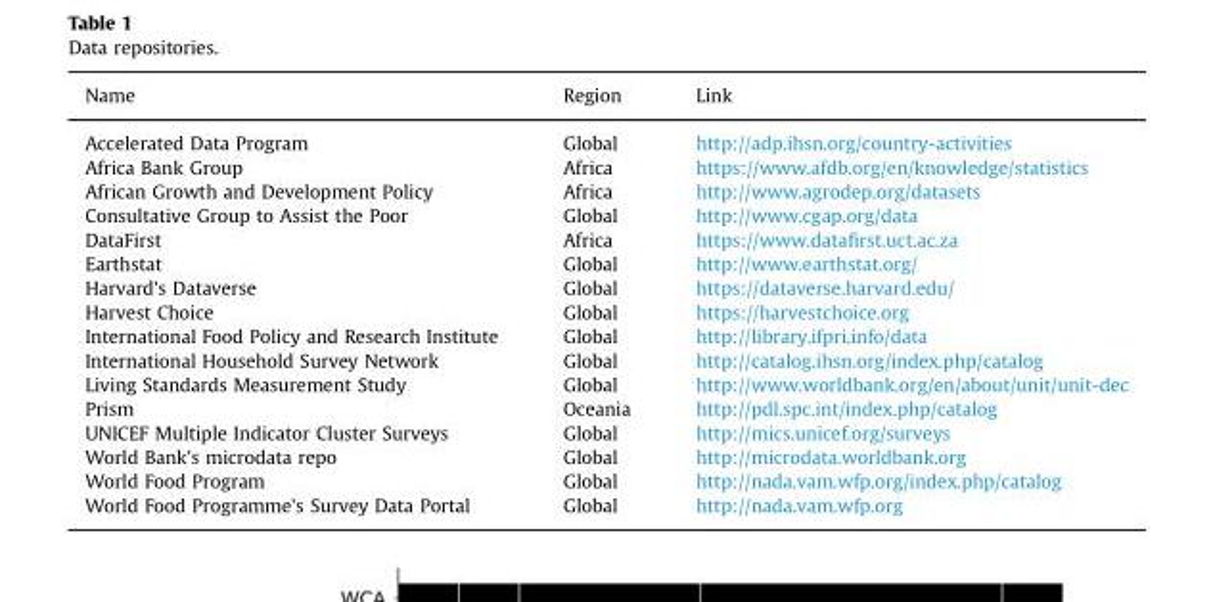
<table><thead><tr><td>Name</td><td>Region</td><td>Link</td></tr></thead><tbody><tr><td>Accelerated Data Program</td><td>Global</td><td>http://adp.ihsn.org/country-activities</td></tr><tr><td>Africa Bank Group</td><td>Africa</td><td>https://www.afdb.org/en/knowledge/statistics</td></tr><tr><td>African Growth and Development Policy</td><td>Africa</td><td>http://www.agrodep.org/datasets</td></tr><tr><td>Consultative Group to Assist the Poor</td><td>Global</td><td>http://www.cgap.org/data</td></tr><tr><td>DataFirst</td><td>Africa</td><td>https://www.datafirst.uct.ac.za</td></tr><tr><td>Earthstat</td><td>Global</td><td>http://www.earthstat.org/</td></tr><tr><td>Harvard&#x27;s Dataverse</td><td>Global</td><td>https://dataverse.harvard.edu/</td></tr><tr><td>Harvest Choice</td><td>Global</td><td>https://harvestchoice.org</td></tr><tr><td>International Food Policy and Research Institute</td><td>Global</td><td>http://library.ifpri.info/data</td></tr><tr><td>International Household Survey Network</td><td>Global</td><td>http://catalog.ihsn.org/index.php/catalog</td></tr><tr><td>Living Standards Measurement Study</td><td>Global</td><td>http://www.worldbank.org/en/about/unit/unit-dec</td></tr><tr><td>Prism</td><td>Oceania</td><td>http://pdl.spc.int/index.php/catalog</td></tr><tr><td>UNICEF Multiple Indicator Cluster Surveys</td><td>Global</td><td>http://mics.unicef.org/surveys</td></tr><tr><td>World Bank&#x27;s microdata repo</td><td>Global</td><td>http://microdata.worldbank.org</td></tr><tr><td>World Food Program</td><td>Global</td><td>http://nada.vam.wfp.org/index.php/catalog</td></tr><tr><td>World Food Programme&#x27;s Survey Data Portal</td><td>Global</td><td>http://nada.vam.wfp.org</td></tr></tbody></table>